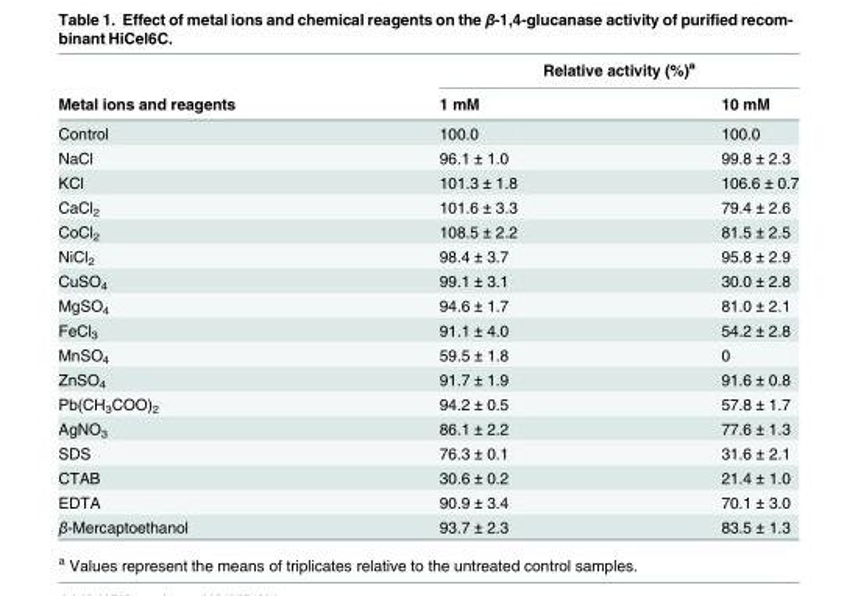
<table><thead><tr><td rowspan="2">Metal ions and reagents</td><td colspan="2">Relative activity (%)<sup>a</sup></td></tr><tr><td>1 mM</td><td>10 mM</td></tr></thead><tbody><tr><td>Control</td><td>100.0</td><td>100.0</td></tr><tr><td>NaCl</td><td>96.1 ± 1.0</td><td>99.8 ± 2.3</td></tr><tr><td>KCl</td><td>101.3 ± 1.8</td><td>106.6 ± 0.7</td></tr><tr><td>CaCl<sub>2</sub></td><td>101.6 ± 3.3</td><td>79.4 ± 2.6</td></tr><tr><td>CoCl<sub>2</sub></td><td>108.5 ± 2.2</td><td>81.5 ± 2.5</td></tr><tr><td>NiCl<sub>2</sub></td><td>98.4 ± 3.7</td><td>95.8 ± 2.9</td></tr><tr><td>CuSO<sub>4</sub></td><td>99.1 ± 3.1</td><td>30.0 ± 2.8</td></tr><tr><td>MgSO<sub>4</sub></td><td>94.6 ± 1.7</td><td>81.0 ± 2.1</td></tr><tr><td>FeCl<sub>3</sub></td><td>91.1 ± 4.0</td><td>54.2 ± 2.8</td></tr><tr><td>MnSO<sub>4</sub></td><td>59.5 ± 1.8</td><td>0</td></tr><tr><td>ZnSO<sub>4</sub></td><td>91.7 ± 1.9</td><td>91.6 ± 0.8</td></tr><tr><td>Pb(CH<sub>3</sub>COO)<sub>2</sub></td><td>94.2 ± 0.5</td><td>57.8 ± 1.7</td></tr><tr><td>AgNO<sub>3</sub></td><td>86.1 ± 2.2</td><td>77.6 ± 1.3</td></tr><tr><td>SDS</td><td>76.3 ± 0.1</td><td>31.6 ± 2.1</td></tr><tr><td>CTAB</td><td>30.6 ± 0.2</td><td>21.4 ± 1.0</td></tr><tr><td>EDTA</td><td>90.9 ± 3.4</td><td>70.1 ± 3.0</td></tr><tr><td>β-Mercaptoethanol</td><td>93.7 ± 2.3</td><td>83.5 ± 1.3</td></tr></tbody></table>